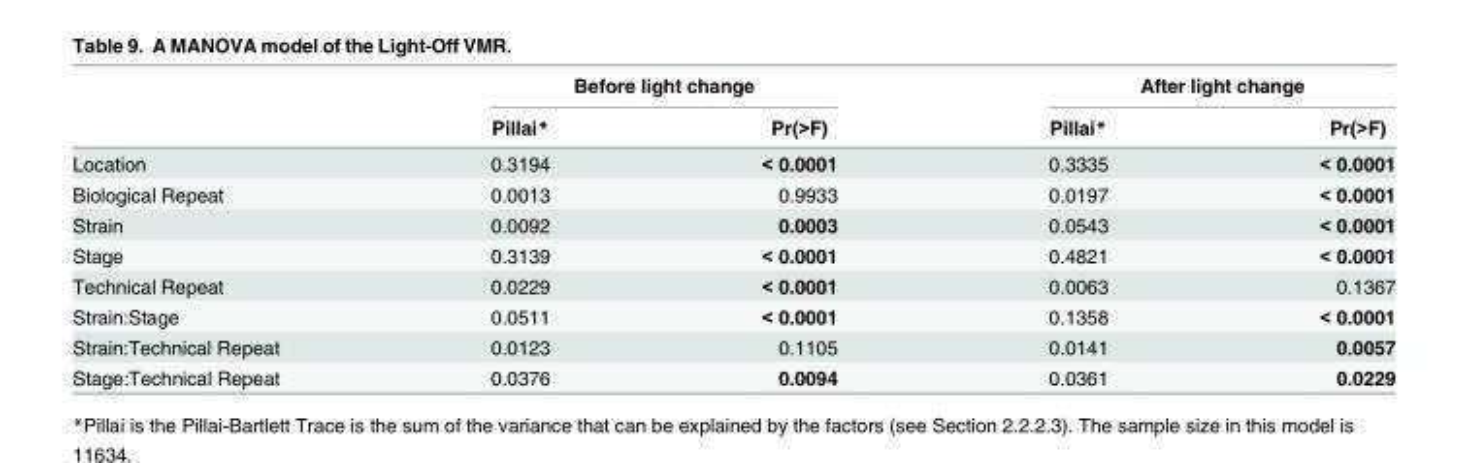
<table><thead><tr><td rowspan="2"></td><td colspan="2">Before light change</td><td colspan="2">After light change</td></tr><tr><td>Pillai*</td><td>Pr(&gt;F)</td><td>Pillai*</td><td>Pr(&gt;F)</td></tr></thead><tbody><tr><td>Location</td><td>0.3194</td><td>&lt; 0.0001</td><td>0.3335</td><td>&lt; 0.0001</td></tr><tr><td>Biological Repeat</td><td>0.0013</td><td>0.9933</td><td>0.0197</td><td>&lt; 0.0001</td></tr><tr><td>Strain</td><td>0.0092</td><td>0.0003</td><td>0.0543</td><td>&lt; 0.0001</td></tr><tr><td>Stage</td><td>0.3139</td><td>&lt; 0.0001</td><td>0.4821</td><td>&lt; 0.0001</td></tr><tr><td>Technical Repeat</td><td>0.0229</td><td>&lt; 0.0001</td><td>0.0063</td><td>0.1367</td></tr><tr><td>Strain:Stage</td><td>0.0511</td><td>&lt; 0.0001</td><td>0.1358</td><td>&lt; 0.0001</td></tr><tr><td>Strain:Technical Repeat</td><td>0.0123</td><td>0.1105</td><td>0.0141</td><td>0.0057</td></tr><tr><td>Stage:Technical Repeat</td><td>0.0376</td><td>0.0094</td><td>0.0361</td><td>0.0229</td></tr></tbody></table>